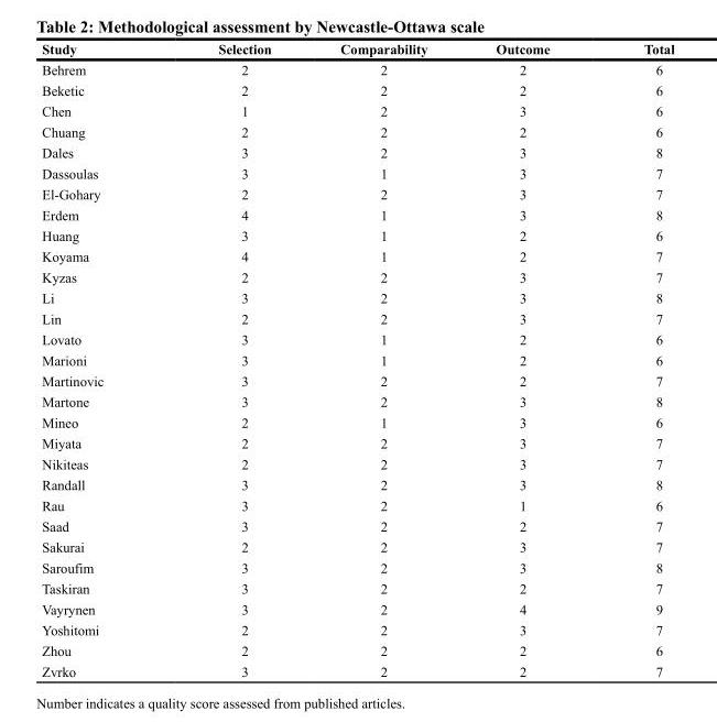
<table><thead><tr><td>Study</td><td>Selection</td><td>Comparability</td><td>Outcome</td><td>Total</td></tr></thead><tbody><tr><td>Behrem</td><td>2</td><td>2</td><td>2</td><td>6</td></tr><tr><td>Beketic</td><td>2</td><td>2</td><td>2</td><td>6</td></tr><tr><td>Chen</td><td>1</td><td>2</td><td>3</td><td>6</td></tr><tr><td>Chuang</td><td>2</td><td>2</td><td>2</td><td>6</td></tr><tr><td>Dales</td><td>3</td><td>2</td><td>3</td><td>8</td></tr><tr><td>Dassoulas</td><td>3</td><td>1</td><td>3</td><td>7</td></tr><tr><td>El-Gohary</td><td>2</td><td>2</td><td>3</td><td>7</td></tr><tr><td>Erdem</td><td>4</td><td>1</td><td>3</td><td>8</td></tr><tr><td>Huang</td><td>3</td><td>1</td><td>2</td><td>6</td></tr><tr><td>Koyama</td><td>4</td><td>1</td><td>2</td><td>7</td></tr><tr><td>Kyzas</td><td>2</td><td>2</td><td>3</td><td>7</td></tr><tr><td>Li</td><td>3</td><td>2</td><td>3</td><td>8</td></tr><tr><td>Lin</td><td>2</td><td>2</td><td>3</td><td>7</td></tr><tr><td>Lovato</td><td>3</td><td>1</td><td>2</td><td>6</td></tr><tr><td>Marioni</td><td>3</td><td>1</td><td>2</td><td>6</td></tr><tr><td>Martinovic</td><td>3</td><td>2</td><td>2</td><td>7</td></tr><tr><td>Martone</td><td>3</td><td>2</td><td>3</td><td>8</td></tr><tr><td>Mineo</td><td>2</td><td>1</td><td>3</td><td>6</td></tr><tr><td>Miyata</td><td>2</td><td>2</td><td>3</td><td>7</td></tr><tr><td>Nikiteas</td><td>2</td><td>2</td><td>3</td><td>7</td></tr><tr><td>Randall</td><td>3</td><td>2</td><td>3</td><td>8</td></tr><tr><td>Rau</td><td>3</td><td>2</td><td>1</td><td>6</td></tr><tr><td>Saad</td><td>3</td><td>2</td><td>2</td><td>7</td></tr><tr><td>Sakurai</td><td>2</td><td>2</td><td>3</td><td>7</td></tr><tr><td>Saroufim</td><td>3</td><td>2</td><td>3</td><td>8</td></tr><tr><td>Taskiran</td><td>3</td><td>2</td><td>2</td><td>7</td></tr><tr><td>Vayrynen</td><td>3</td><td>2</td><td>4</td><td>9</td></tr><tr><td>Yoshitomi</td><td>2</td><td>2</td><td>3</td><td>7</td></tr><tr><td>Zhou</td><td>2</td><td>2</td><td>2</td><td>6</td></tr><tr><td>Zvrko</td><td>3</td><td>2</td><td>2</td><td>7</td></tr></tbody></table>